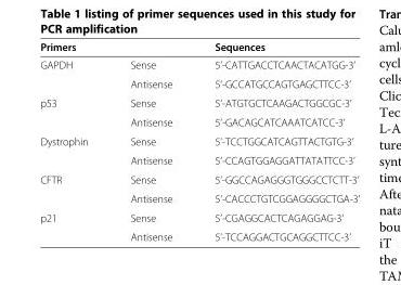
<table><thead><tr><td colspan="2">Primers</td><td rowspan="2">Sequences 5’-CATTGACCTCAACTACATGG-3’</td></tr><tr><td>GAPDH</td><td>Sense</td></tr></thead><tbody><tr><td></td><td>Antisense</td><td>5’-GCCATGCCAGTGAGCTTCC-3’</td></tr><tr><td rowspan="2">p53</td><td>Sense</td><td>5’-ATGTGCTCAAGACTGGCGC-3’</td></tr><tr><td>Antisense</td><td>5’-GACAGCATCAAATCATCC-3’</td></tr><tr><td rowspan="2">Dystrophin</td><td>Sense</td><td>5’-TCCTGGCATCAGTTACTGTG-3’</td></tr><tr><td>Antisense</td><td>5’-CCAGTGGAGGATTATATTCC-3’</td></tr><tr><td rowspan="2">CFTR</td><td>Sense</td><td>5’-GGCCAGAGGGTGGGCCTCTT-3’</td></tr><tr><td>Antisense</td><td>5’-CACCCTGTCGGAGGGGCTGA-3’</td></tr><tr><td rowspan="2">p21</td><td>Sense</td><td>5’-CGAGGCACTCAGAGGAG-3’</td></tr><tr><td>Antisense</td><td>5’-TCCAGGACTGCAGGCTTCC-3’</td></tr></tbody></table>